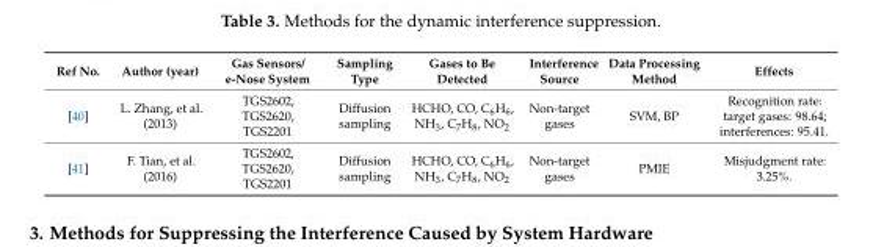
<table><thead><tr><td>Ref No.</td><td>Author (year)</td><td>Gas Sensors/ e-Nose System</td><td>Sampling Type</td><td>Gases to Be Detected</td><td>Interference Source</td><td>Data Processing Method</td><td>Effects</td></tr></thead><tbody><tr><td>[40]</td><td>L. Zhang, et al. (2013)</td><td>TGS2602, TGS2620, TGS2201</td><td>Diffusion sampling</td><td>HCHO, CO, C<sub>6</sub>H<sub>6</sub>, NH<sub>3</sub>, C<sub>7</sub>H<sub>8</sub>, NO<sub>2</sub></td><td>Non-target gases</td><td>SVM, BP</td><td>Recognition rate: target gases: 98.64; interferences: 95.41.</td></tr><tr><td>[41]</td><td>F. Tian, et al. (2016)</td><td>TGS2602, TGS2620, TGS2201</td><td>Diffusion sampling</td><td>HCHO, CO, C<sub>6</sub>H<sub>6</sub>, NH<sub>3</sub>, C<sub>7</sub>H<sub>8</sub>, NO<sub>2</sub></td><td>Non-target gases</td><td>PMIE</td><td>Misjudgment rate: 3.25%.</td></tr></tbody></table>